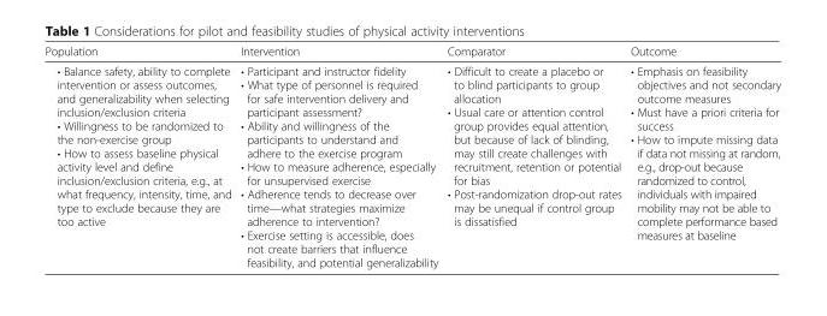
<table><thead><tr><td>Population</td><td>Intervention</td><td>Comparator</td><td>Outcome</td></tr></thead><tbody><tr><td>• Balance safety, ability to complete intervention or assess outcomes, and generalizability when selecting inclusion/exclusion criteria • Willingness to be randomized to the non-exercise group • How to assess baseline physical activity level and define inclusion/exclusion criteria, e.g., at what frequency, intensity, time, and type to exclude because they are too active</td><td>• Participant and instructor fidelity • What type of personnel is required for safe intervention delivery and participant assessment? • Ability and willingness of the participants to understand and adhere to the exercise program • How to measure adherence, especially for unsupervised exercise • Adherence tends to decrease over time—what strategies maximize adherence to intervention? • Exercise setting is accessible, does not create barriers that influence feasibility, and potential generalizability</td><td>• Difficult to create a placebo or to blind participants to group allocation • Usual care or attention control group provides equal attention, but because of lack of blinding, may still create challenges with recruitment, retention or potential for bias • Post-randomization drop-out rates may be unequal if control group is dissatisfied</td><td>• Emphasis on feasibility objectives and not secondary outcome measures • Must have a priori criteria for success • How to impute missing data if data not missing at random, e.g., drop-out because randomized to control, individuals with impaired mobility may not be able to complete performance based measures at baseline</td></tr></tbody></table>